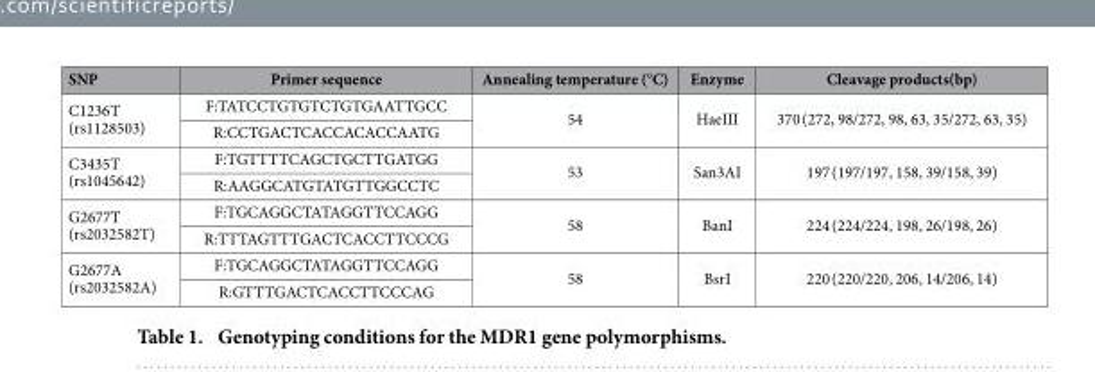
<table><thead><tr><td>SNP</td><td>Primer sequence</td><td>Annealing temperature (°C)</td><td>Enzyme</td><td>Cleavage products(bp)</td></tr></thead><tbody><tr><td rowspan="2">C1236T (rs1128503)</td><td>F:TATCCTGTGTCTGTGAATTGCC</td><td rowspan="2">54</td><td rowspan="2">HaeIII</td><td rowspan="2">370 (272, 98/272, 98, 63, 35/272, 63, 35)</td></tr><tr><td>R:CCTGACTCACCACACCAATG</td></tr><tr><td rowspan="2">C3435T (rs1045642)</td><td>F:TGTTTTCAGCTGCTTGATGG</td><td rowspan="2">53</td><td rowspan="2">San3AI</td><td rowspan="2">197 (197/197, 158, 39/158, 39)</td></tr><tr><td>R:AAGGCATGTATGTTGGCCTC</td></tr><tr><td rowspan="2">G2677T (rs2032582T)</td><td>F:TGCAGGCTATAGGTTCCAGG</td><td rowspan="2">58</td><td rowspan="2">BanI</td><td rowspan="2">224 (224/224, 198, 26/198, 26)</td></tr><tr><td>R:TTTAGTTTGACTCACCTTCCCG</td></tr><tr><td rowspan="2">G2677A (rs2032582A)</td><td>F:TGCAGGCTATAGGTTCCAGG</td><td rowspan="2">58</td><td rowspan="2">BsrI</td><td rowspan="2">220 (220/220, 206, 14/206, 14)</td></tr><tr><td>R:GTTTGACTCACCTTCCCAG</td></tr></tbody></table>